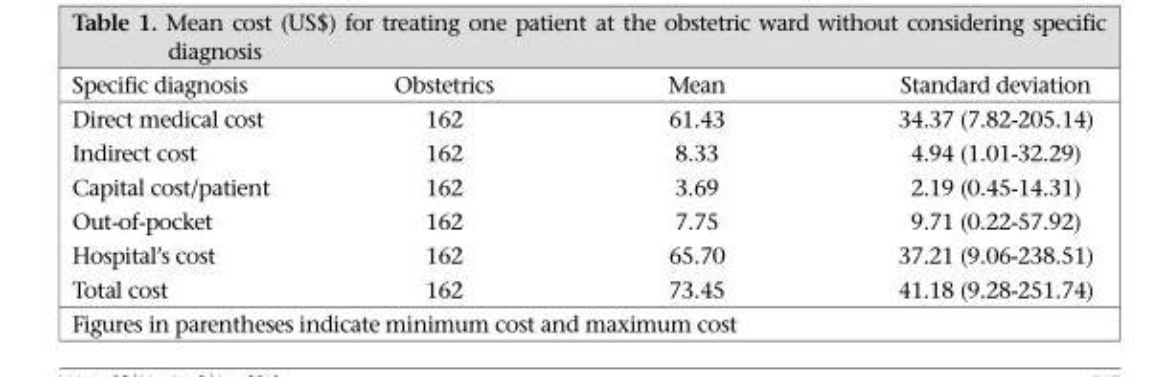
<table><thead><tr><td>Specific diagnosis</td><td>Obstetrics</td><td>Mean</td><td>Standard deviation</td></tr></thead><tbody><tr><td>Direct medical cost</td><td>162</td><td>61.43</td><td>34.37 (7.82-205.14)</td></tr><tr><td>Indirect cost</td><td>162</td><td>8.33</td><td>4.94 (1.01-32.29)</td></tr><tr><td>Capital cost/patient</td><td>162</td><td>3.69</td><td>2.19 (0.45-14.31)</td></tr><tr><td>Out-of-pocket</td><td>162</td><td>7.75</td><td>9.71 (0.22-57.92)</td></tr><tr><td>Hospital’s cost</td><td>162</td><td>65.70</td><td>37.21 (9.06-238.51)</td></tr><tr><td>Total cost</td><td>162</td><td>73.45</td><td>41.18 (9.28-251.74)</td></tr></tbody></table>